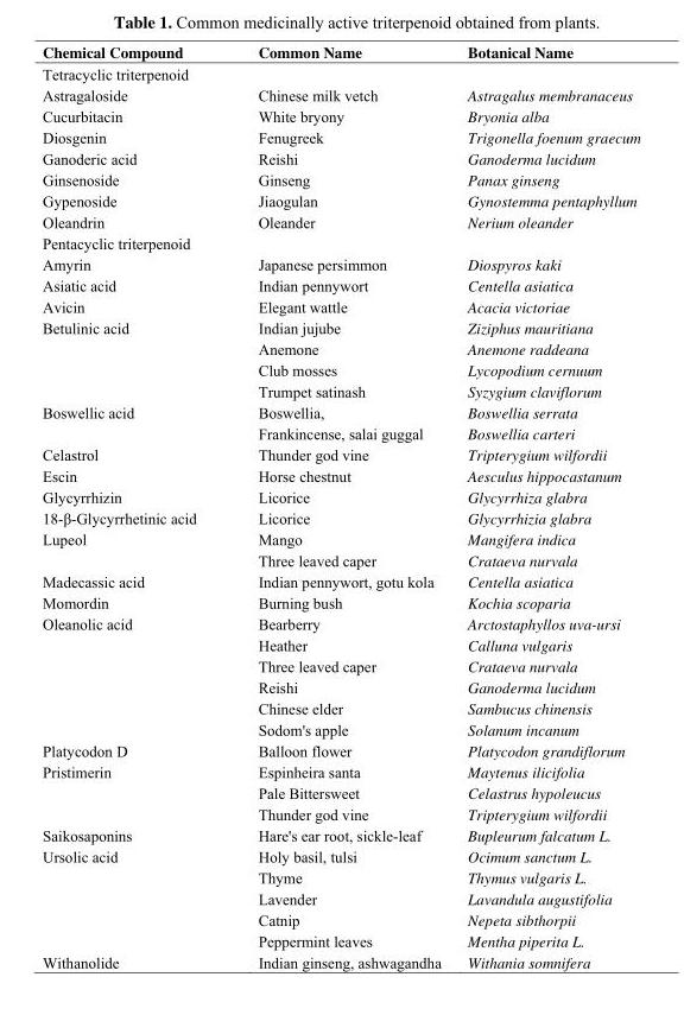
<table><thead><tr><td>Chemical Compound</td><td>Common Name</td><td>Botanical Name</td></tr></thead><tbody><tr><td colspan="3">Tetracyclic triterpenoid</td></tr><tr><td>Astragaloside</td><td>Chinese milk vetch</td><td>Astragalus membranaceus</td></tr><tr><td>Cucurbitacin</td><td>White bryony</td><td>Bryonia alba</td></tr><tr><td>Diosgenin</td><td>Fenugreek</td><td>Trigonella foenum graecum</td></tr><tr><td>Ganoderic acid</td><td>Reishi</td><td>Ganoderma lucidum</td></tr><tr><td>Ginsenoside</td><td>Ginseng</td><td>Panax ginseng</td></tr><tr><td>Gypenoside</td><td>Jiaogulan</td><td>Gynostemma pentaphyllum</td></tr><tr><td>Oleandrin</td><td>Oleander</td><td>Nerium oleander</td></tr><tr><td colspan="3">Pentacyclic triterpenoid</td></tr><tr><td>Amyrin</td><td>Japanese persimmon</td><td>Diospyros kaki</td></tr><tr><td>Asiatic acid</td><td>Indian pennywort</td><td>Centella asiatica</td></tr><tr><td>Avicin</td><td>Elegant wattle</td><td>Acacia victoriae</td></tr><tr><td rowspan="4">Betulinic acid</td><td>Indian jujube</td><td>Ziziphus mauritiana</td></tr><tr><td>Anemone</td><td>Anemone raddeana</td></tr><tr><td>Club mosses</td><td>Lycopodium cernuum</td></tr><tr><td>Trumpet satinash</td><td>Syzygium claviflorum</td></tr><tr><td rowspan="2">Boswellic acid</td><td>Boswellia,</td><td>Boswellia serrata</td></tr><tr><td>Frankincense, salai guggal</td><td>Boswellia carteri</td></tr><tr><td>Celastrol</td><td>Thunder god vine</td><td>Tripterygium wilfordii</td></tr><tr><td>Escin</td><td>Horse chestnut</td><td>Aesculus hippocastanum</td></tr><tr><td>Glycyrrhizin</td><td>Licorice</td><td>Glycyrrhiza glabra</td></tr><tr><td>18-β-Glycyrrhetinic acid</td><td>Licorice</td><td>Glycyrrhizia glabra</td></tr><tr><td rowspan="2">Lupeol</td><td>Mango</td><td>Mangifera indica</td></tr><tr><td>Three leaved caper</td><td>Crataeva nurvala</td></tr><tr><td>Madecassic acid</td><td>Indian pennywort, gotu kola</td><td>Centella asiatica</td></tr><tr><td>Momordin</td><td>Burning bush</td><td>Kochia scoparia</td></tr><tr><td rowspan="6">Oleanolic acid</td><td>Bearberry</td><td>Arctostaphyllos uva-ursi</td></tr><tr><td>Heather</td><td>Calluna vulgaris</td></tr><tr><td>Three leaved caper</td><td>Crataeva nurvala</td></tr><tr><td>Reishi</td><td>Ganoderma lucidum</td></tr><tr><td>Chinese elder</td><td>Sambucus chinensis</td></tr><tr><td>Sodom&#x27;s apple</td><td>Solanum incanum</td></tr><tr><td>Platycodon D</td><td>Balloon flower</td><td>Platycodon grandiflorum</td></tr><tr><td rowspan="3">Pristimerin</td><td>Espinheira santa</td><td>Maytenus ilicifolia</td></tr><tr><td>Pale Bittersweet</td><td>Celastrus hypoleucus</td></tr><tr><td>Thunder god vine</td><td>Tripterygium wilfordii</td></tr><tr><td>Saikosaponins</td><td>Hare&#x27;s ear root, sickle-leaf</td><td>Bupleurum falcatum L.</td></tr><tr><td rowspan="5">Ursolic acid</td><td>Holy basil, tulsi</td><td>Ocimum sanctum L.</td></tr><tr><td>Thyme</td><td>Thymus vulgaris L.</td></tr><tr><td>Lavender</td><td>Lavandula augustifolia</td></tr><tr><td>Catnip</td><td>Nepeta sibthorpii</td></tr><tr><td>Peppermint leaves</td><td>Mentha piperita L.</td></tr><tr><td>Withanolide</td><td>Indian ginseng, ashwagandha</td><td>Withania somnifera</td></tr></tbody></table>